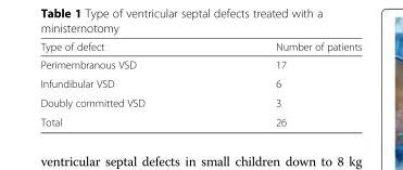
<table><thead><tr><td>Type of defect</td><td>Number of patients</td></tr></thead><tbody><tr><td>Perimembranous VSD</td><td>17</td></tr><tr><td>Infundibular VSD</td><td>6</td></tr><tr><td>Doubly committed VSD</td><td>3</td></tr><tr><td>Total</td><td>26</td></tr></tbody></table>